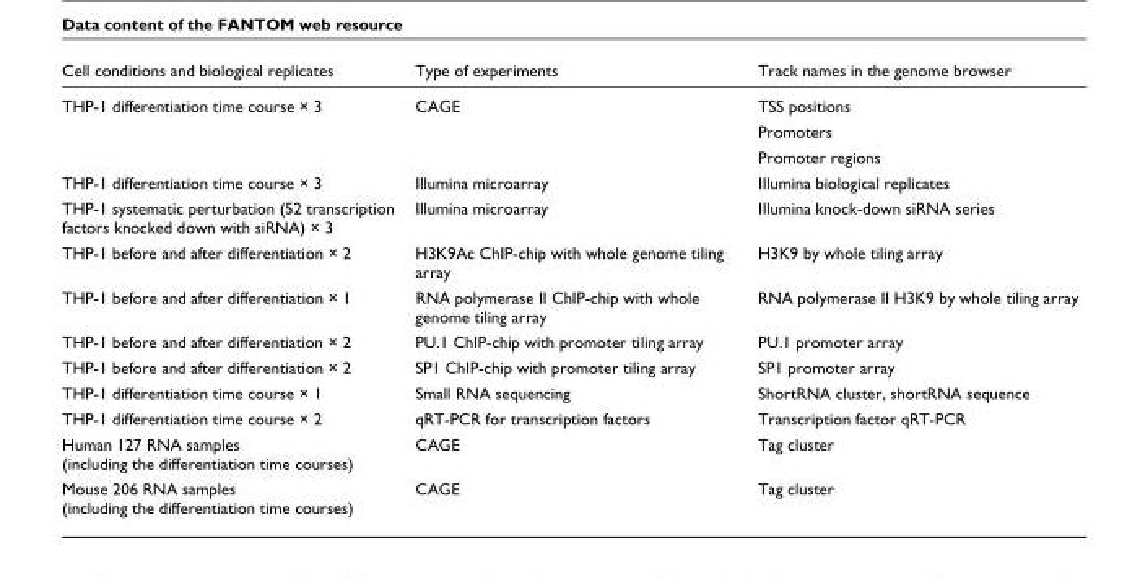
<table><thead><tr><td>Cell conditions and biological replicates</td><td>Type of experiments</td><td>Track names in the genome browser</td></tr></thead><tbody><tr><td rowspan="3">THP-1 differentiation time course × 3</td><td>CAGE</td><td>TSS positions</td></tr><tr><td></td><td>Promoters</td></tr><tr><td></td><td>Promoter regions</td></tr><tr><td>THP-1 differentiation time course × 3</td><td>Illumina microarray</td><td>Illumina biological replicates</td></tr><tr><td>THP-1 systematic perturbation (52 transcription factors knocked down with siRNA) × 3</td><td>Illumina microarray</td><td>Illumina knock-down siRNA series</td></tr><tr><td>THP-1 before and after differentiation × 2</td><td>H3K9Ac ChIP-chip with whole genome tiling array</td><td>H3K9 by whole tiling array</td></tr><tr><td>THP-1 before and after differentiation × 1</td><td>RNA polymerase II ChIP-chip with whole genome tiling array</td><td>RNA polymerase II H3K9 by whole tiling array</td></tr><tr><td>THP-1 before and after differentiation × 2</td><td>PU.1 ChIP-chip with promoter tiling array</td><td>PU.1 promoter array</td></tr><tr><td>THP-1 before and after differentiation × 2</td><td>SP1 ChIP-chip with promoter tiling array</td><td>SP1 promoter array</td></tr><tr><td>THP-1 differentiation time course × 1</td><td>Small RNA sequencing</td><td>ShortRNA cluster, shortRNA sequence</td></tr><tr><td>THP-1 differentiation time course × 2</td><td>qRT-PCR for transcription factors</td><td>Transcription factor qRT-PCR</td></tr><tr><td>Human 127 RNA samples (including the differentiation time courses)</td><td>CAGE</td><td>Tag cluster</td></tr><tr><td>Mouse 206 RNA samples (including the differentiation time courses)</td><td>CAGE</td><td>Tag cluster</td></tr></tbody></table>